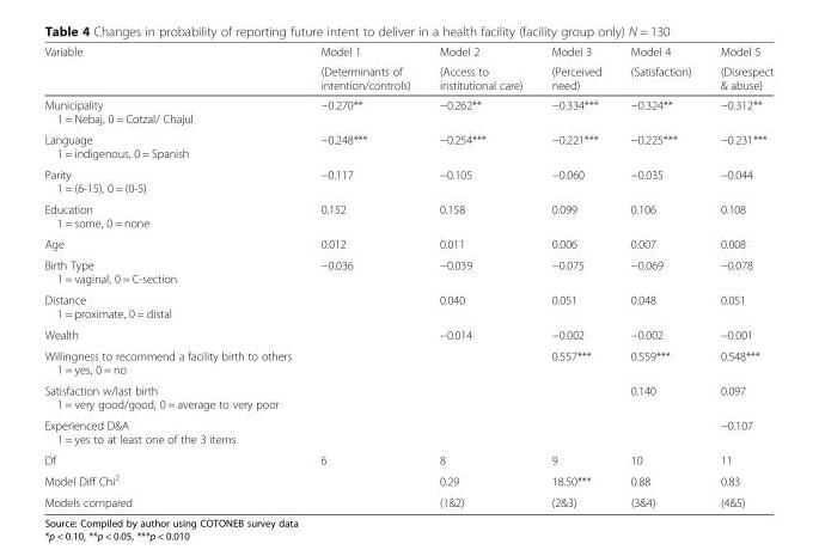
<table><thead><tr><td rowspan="2">Variable</td><td rowspan="2">Model 1 (Determinants of intention/controls)</td><td rowspan="2">Model 2 (Access to institutional care)</td><td rowspan="2">Model 3 (Perceived need)</td><td rowspan="2">Model 4 (Satisfaction)</td><td rowspan="2">Model 5 (Disrespect &amp; abuse)</td></tr><tr></tr></thead><tbody><tr><td>Municipality 1 = Nebaj, 0 = Cotzal/ Chajul</td><td>−0.270**</td><td>−0.262**</td><td>−0.334***</td><td>−0.324**</td><td>−0.312**</td></tr><tr><td>Language 1 = indigenous, 0 = Spanish</td><td>−0.248***</td><td>−0.254***</td><td>−0.221***</td><td>−0.225***</td><td>−0.231***</td></tr><tr><td>Parity 1 = (6-15), 0 = (0-5)</td><td>−0.117</td><td>−0.105</td><td>−0.060</td><td>−0.035</td><td>−0.044</td></tr><tr><td>Education 1 = some, 0 = none</td><td>0.152</td><td>0.158</td><td>0.099</td><td>0.106</td><td>0.108</td></tr><tr><td>Age</td><td>0.012</td><td>0.011</td><td>0.006</td><td>0.007</td><td>0.008</td></tr><tr><td>Birth Type 1 = vaginal, 0 = C-section</td><td>−0.036</td><td>−0.039</td><td>−0.075</td><td>−0.069</td><td>−0.078</td></tr><tr><td>Distance 1 = proximate, 0 = distal</td><td></td><td>0.040</td><td>0.051</td><td>0.048</td><td>0.051</td></tr><tr><td>Wealth</td><td></td><td>−0.014</td><td>−0.002</td><td>−0.002</td><td>−0.001</td></tr><tr><td>Willingness to recommend a facility birth to others 1 = yes, 0 = no</td><td></td><td></td><td>0.557***</td><td>0.559***</td><td>0.548***</td></tr><tr><td>Satisfaction w/last birth 1 = very good/good, 0 = average to very poor</td><td></td><td></td><td></td><td>0.140</td><td>0.097</td></tr><tr><td>Experienced D&amp;A 1 = yes to at least one of the 3 items</td><td></td><td></td><td></td><td></td><td>−0.107</td></tr><tr><td>Df</td><td>6</td><td>8</td><td>9</td><td>10</td><td>11</td></tr><tr><td>Model Diff Chi<sup>2</sup></td><td></td><td>0.29</td><td>18.50***</td><td>0.88</td><td>0.83</td></tr><tr><td>Models compared</td><td></td><td>(1&amp;2)</td><td>(2&amp;3)</td><td>(3&amp;4)</td><td>(4&amp;5)</td></tr></tbody></table>